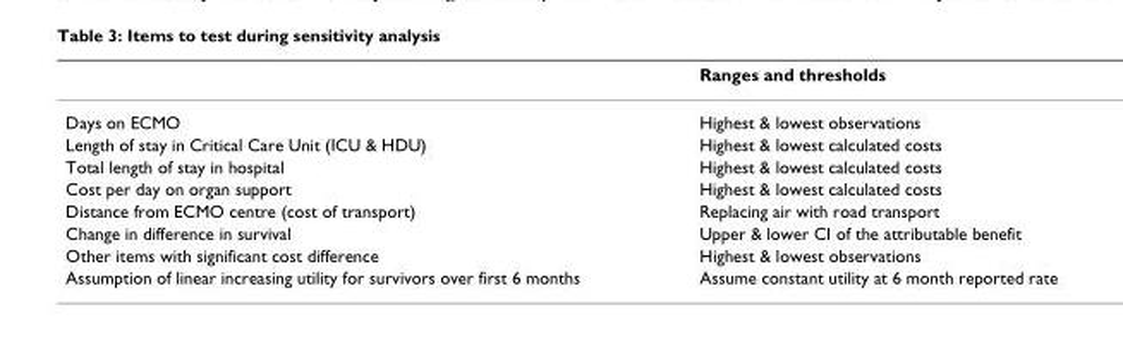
<table><thead><tr><td></td><td>Ranges and thresholds</td></tr></thead><tbody><tr><td>Days on ECMO</td><td>Highest &amp; lowest observations</td></tr><tr><td>Length of stay in Critical Care Unit (ICU &amp; HDU)</td><td>Highest &amp; lowest calculated costs</td></tr><tr><td>Total length of stay in hospital</td><td>Highest &amp; lowest calculated costs</td></tr><tr><td>Cost per day on organ support</td><td>Highest &amp; lowest calculated costs</td></tr><tr><td>Distance from ECMO centre (cost of transport)</td><td>Replacing air with road transport</td></tr><tr><td>Change in difference in survival</td><td>Upper &amp; lower CI of the attributable benefit</td></tr><tr><td>Other items with significant cost difference</td><td>Highest &amp; lowest observations</td></tr><tr><td>Assumption of linear increasing utility for survivors over first 6 months</td><td>Assume constant utility at 6 month reported rate</td></tr></tbody></table>